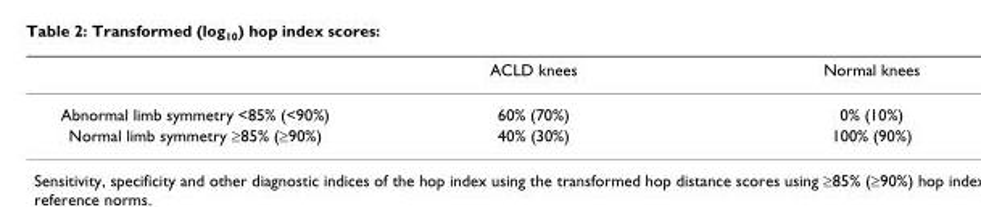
<table><thead><tr><td></td><td>ACLD knees</td><td>Normal knees</td></tr></thead><tbody><tr><td>Abnormal limb symmetry &lt;85% (&lt;90%)</td><td>60% (70%)</td><td>0% (10%)</td></tr><tr><td>Normal limb symmetry ≥85% (≥90%)</td><td>40% (30%)</td><td>100% (90%)</td></tr></tbody></table>